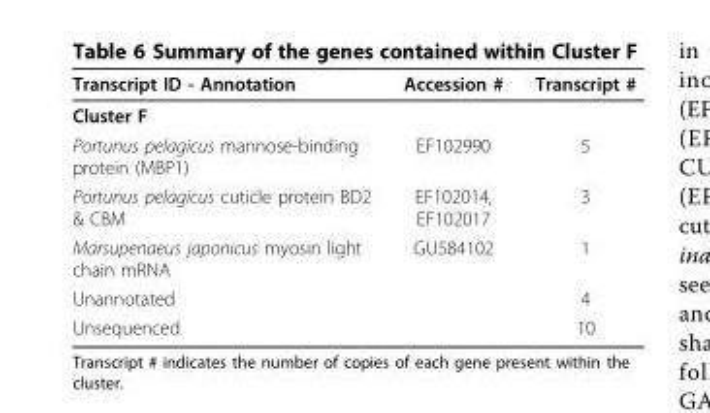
<table><thead><tr><td>Transcript ID - Annotation</td><td>Accession #</td><td>Transcript #</td></tr></thead><tbody><tr><td colspan="3">Cluster F</td></tr><tr><td>Portunus pelagicus mannose-binding protein (MBP1)</td><td>EF102990</td><td>5</td></tr><tr><td>Portunus pelagicus cuticle protein BD2 &amp; CBM</td><td>EF102014, EF102017</td><td>3</td></tr><tr><td>Marsupenaeus japonicus myosin light chain mRNA</td><td>GU584102</td><td>1</td></tr><tr><td>Unannotated</td><td></td><td>4</td></tr><tr><td>Unsequenced</td><td></td><td>10</td></tr></tbody></table>